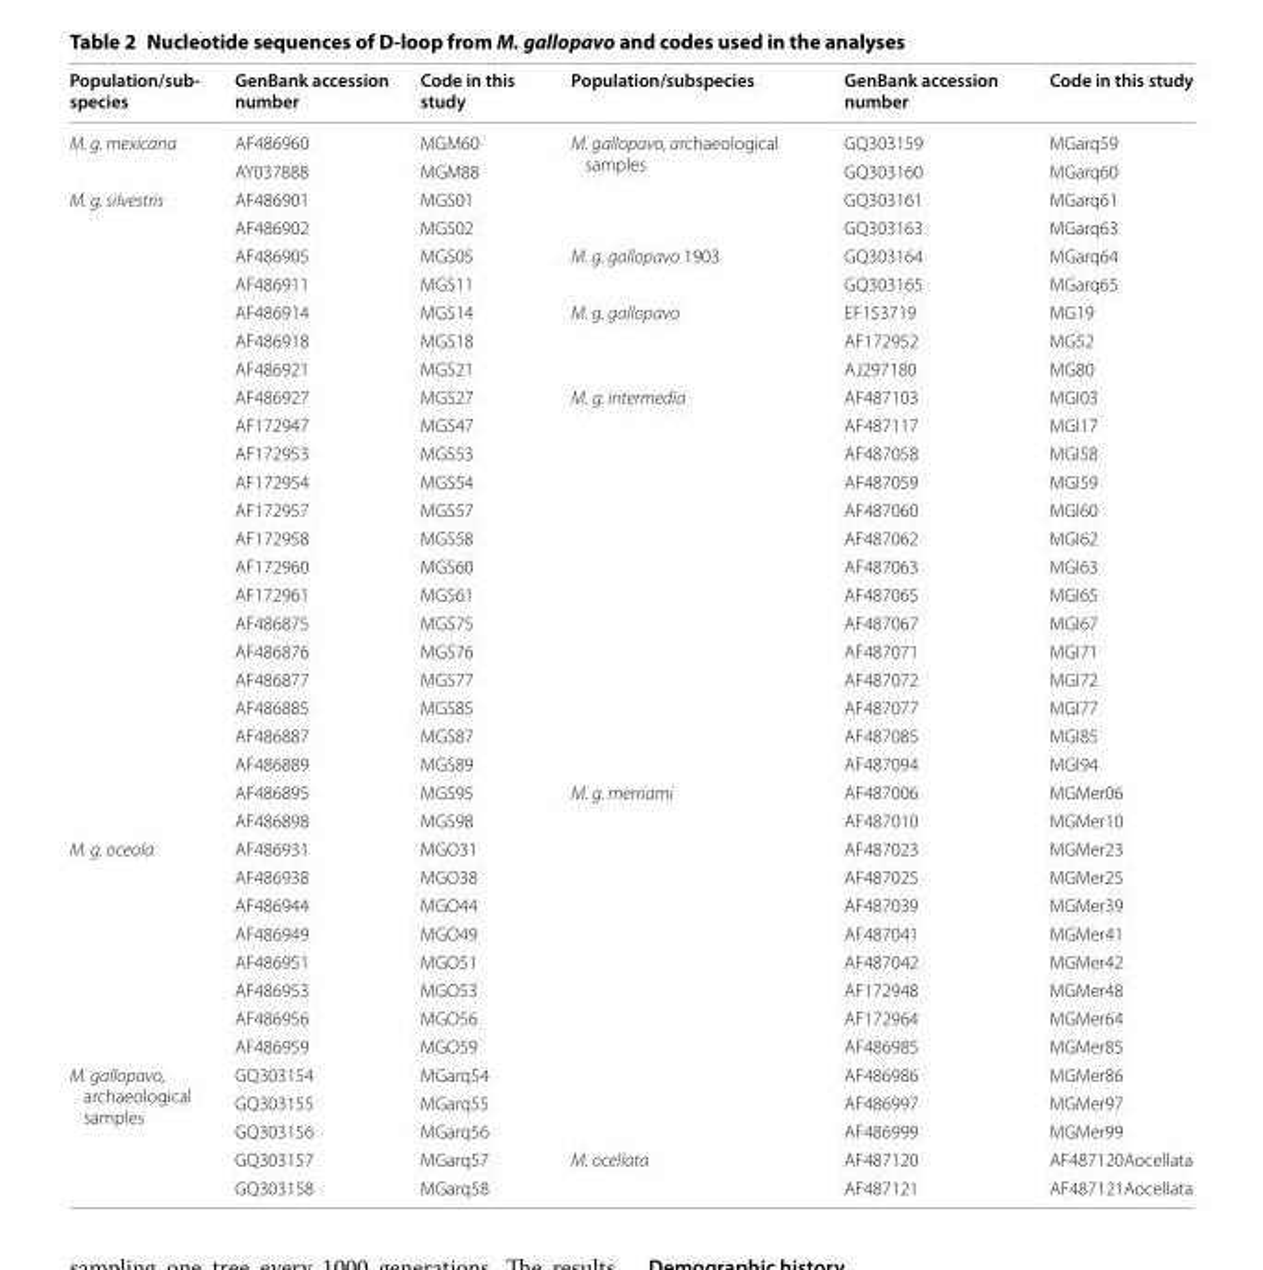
<table><thead><tr><td>Population/sub- species</td><td>GenBank accession number</td><td>Code in this study</td><td>Population/subspecies</td><td>GenBank accession number</td><td>Code in this study</td></tr></thead><tbody><tr><td rowspan="2">M. g. mexicana</td><td>AF486960</td><td>MGM60</td><td rowspan="4">M. gallopavo, archaeological samples</td><td>GQ303159</td><td>MGarq59</td></tr><tr><td>AY037888</td><td>MGM88</td><td>GQ303160</td><td>MGarq60</td></tr><tr><td rowspan="23">M. g. silvestris</td><td>AF486901</td><td>MGS01</td><td>GQ303161</td><td>MGarq61</td></tr><tr><td>AF486902</td><td>MGS02</td><td>GQ303163</td><td>MGarq63</td></tr><tr><td>AF486905</td><td>MGS05</td><td rowspan="2">M. g. gallopavo 1903</td><td>GQ303164</td><td>MGarq64</td></tr><tr><td>AF486911</td><td>MGS11</td><td>GQ303165</td><td>MGarq65</td></tr><tr><td>AF486914</td><td>MGS14</td><td rowspan="3">M. g. gallopavo</td><td>EF153719</td><td>MG19</td></tr><tr><td>AF486918</td><td>MGS18</td><td>AF172952</td><td>MG52</td></tr><tr><td>AF486921</td><td>MGS21</td><td>AJ297180</td><td>MG80</td></tr><tr><td>AF486927</td><td>MGS27</td><td rowspan="14">M. g. intermedia</td><td>AF487103</td><td>MGI03</td></tr><tr><td>AF172947</td><td>MGS47</td><td>AF487117</td><td>MGI17</td></tr><tr><td>AF172953</td><td>MGS53</td><td>AF487058</td><td>MGI58</td></tr><tr><td>AF172954</td><td>MGS54</td><td>AF487059</td><td>MGI59</td></tr><tr><td>AF172957</td><td>MGS57</td><td>AF487060</td><td>MGI60</td></tr><tr><td>AF172958</td><td>MGS58</td><td>AF487062</td><td>MGI62</td></tr><tr><td>AF172960</td><td>MGS60</td><td>AF487063</td><td>MGI63</td></tr><tr><td>AF172961</td><td>MGS61</td><td>AF487065</td><td>MGI65</td></tr><tr><td>AF486875</td><td>MGS75</td><td>AF487067</td><td>MGI67</td></tr><tr><td>AF486876</td><td>MGS76</td><td>AF487071</td><td>MGI71</td></tr><tr><td>AF486877</td><td>MGS77</td><td>AF487072</td><td>MGI72</td></tr><tr><td>AF486885</td><td>MGS85</td><td>AF487077</td><td>MGI77</td></tr><tr><td>AF486887</td><td>MGS87</td><td>AF487085</td><td>MGI85</td></tr><tr><td>AF486889</td><td>MGS89</td><td>AF487094</td><td>MGI94</td></tr><tr><td>AF486895</td><td>MGS95</td><td rowspan="13">M. g. merriami</td><td>AF487006</td><td>MGMer06</td></tr><tr><td>AF486898</td><td>MGS98</td><td>AF487010</td><td>MGMer10</td></tr><tr><td rowspan="8">M. g. oceola</td><td>AF486931</td><td>MGO31</td><td>AF487023</td><td>MGMer23</td></tr><tr><td>AF486938</td><td>MGO38</td><td>AF487025</td><td>MGMer25</td></tr><tr><td>AF486944</td><td>MGO44</td><td>AF487039</td><td>MGMer39</td></tr><tr><td>AF486949</td><td>MGO49</td><td>AF487041</td><td>MGMer41</td></tr><tr><td>AF486951</td><td>MGO51</td><td>AF487042</td><td>MGMer42</td></tr><tr><td>AF486953</td><td>MGO53</td><td>AF172948</td><td>MGMer48</td></tr><tr><td>AF486956</td><td>MGO56</td><td>AF172964</td><td>MGMer64</td></tr><tr><td>AF486959</td><td>MGO59</td><td>AF486985</td><td>MGMer85</td></tr><tr><td rowspan="5">M. gallopavo, archaeological samples</td><td>GQ303154</td><td>MGarq54</td><td>AF486986</td><td>MGMer86</td></tr><tr><td>GQ303155</td><td>MGarq55</td><td>AF486997</td><td>MGMer97</td></tr><tr><td>GQ303156</td><td>MGarq56</td><td>AF486999</td><td>MGMer99</td></tr><tr><td>GQ303157</td><td>MGarq57</td><td rowspan="2">M. ocellata</td><td>AF487120</td><td>AF487120Aocellata</td></tr><tr><td>GQ303158</td><td>MGarq58</td><td>AF487121</td><td>AF487121Aocellata</td></tr></tbody></table>